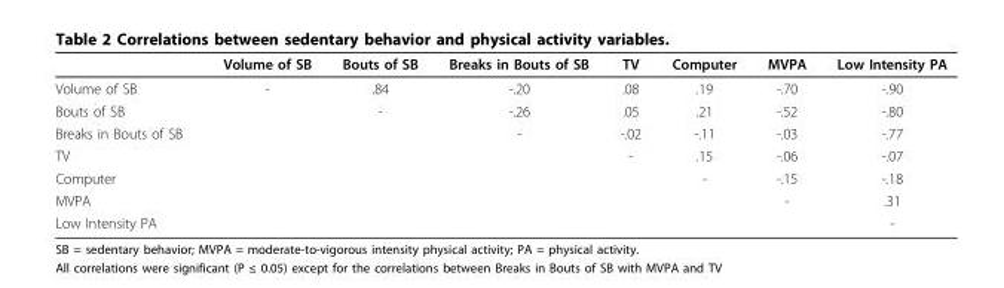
<table><thead><tr><td></td><td>Volume of SB</td><td>Bouts of SB</td><td>Breaks in Bouts of SB</td><td>TV</td><td>Computer</td><td>MVPA</td><td>Low Intensity PA</td></tr></thead><tbody><tr><td>Volume of SB</td><td>-</td><td>.84</td><td>-.20</td><td>.08</td><td>.19</td><td>-.70</td><td>-.90</td></tr><tr><td>Bouts of SB</td><td></td><td>-</td><td>-.26</td><td>.05</td><td>.21</td><td>-.52</td><td>-.80</td></tr><tr><td>Breaks in Bouts of SB</td><td></td><td></td><td>-</td><td>-.02</td><td>-.11</td><td>-.03</td><td>-.77</td></tr><tr><td>TV</td><td></td><td></td><td></td><td>-</td><td>.15</td><td>-.06</td><td>-.07</td></tr><tr><td>Computer</td><td></td><td></td><td></td><td></td><td>-</td><td>-.15</td><td>-.18</td></tr><tr><td>MVPA</td><td></td><td></td><td></td><td></td><td></td><td>-</td><td>.31</td></tr><tr><td>Low Intensity PA</td><td></td><td></td><td></td><td></td><td></td><td></td><td>-</td></tr></tbody></table>